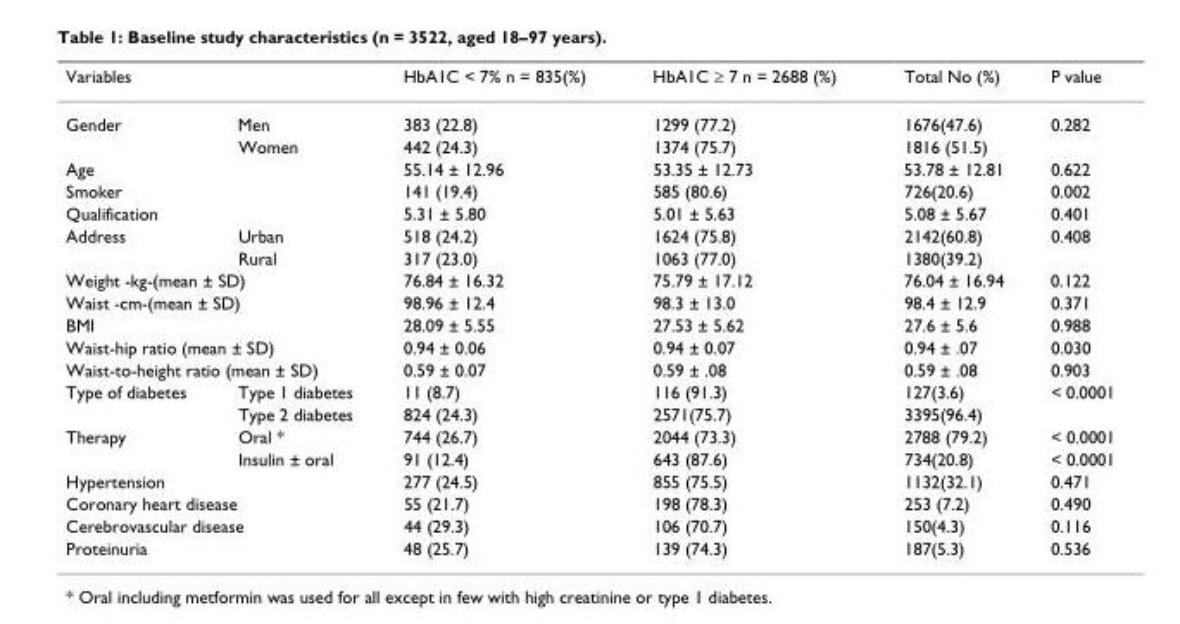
<table><thead><tr><td colspan="2">Variables</td><td rowspan="2">HbA1C &lt; 7% n = 835(%) 383 (22.8)</td><td rowspan="2">HbA1C ≥ 7 n = 2688 (%) 1299 (77.2)</td><td rowspan="2">Total No (%) 1676(47.6)</td><td rowspan="2">P value 0.282</td></tr><tr><td>Gender</td><td>Men</td></tr></thead><tbody><tr><td></td><td>Women</td><td>442 (24.3)</td><td>1374 (75.7)</td><td>1816 (51.5)</td><td></td></tr><tr><td colspan="2">Age</td><td>55.14 ± 12.96</td><td>53.35 ± 12.73</td><td>53.78 ± 12.81</td><td>0.622</td></tr><tr><td colspan="2">Smoker</td><td>141 (19.4)</td><td>585 (80.6)</td><td>726(20.6)</td><td>0.002</td></tr><tr><td colspan="2">Qualification</td><td>5.31 ± 5.80</td><td>5.01 ± 5.63</td><td>5.08 ± 5.67</td><td>0.401</td></tr><tr><td rowspan="2">Address</td><td>Urban</td><td>518 (24.2)</td><td>1624 (75.8)</td><td>2142(60.8)</td><td>0.408</td></tr><tr><td>Rural</td><td>317 (23.0)</td><td>1063 (77.0)</td><td>1380(39.2)</td><td></td></tr><tr><td colspan="2">Weight -kg-(mean ± SD)</td><td>76.84 ± 16.32</td><td>75.79 ± 17.12</td><td>76.04 ± 16.94</td><td>0.122</td></tr><tr><td colspan="2">Waist -cm-(mean ± SD)</td><td>98.96 ± 12.4</td><td>98.3 ± 13.0</td><td>98.4 ± 12.9</td><td>0.371</td></tr><tr><td colspan="2">BMI</td><td>28.09 ± 5.55</td><td>27.53 ± 5.62</td><td>27.6 ± 5.6</td><td>0.988</td></tr><tr><td colspan="2">Waist-hip ratio (mean ± SD)</td><td>0.94 ± 0.06</td><td>0.94 ± 0.07</td><td>0.94 ± .07</td><td>0.030</td></tr><tr><td colspan="2">Waist-to-height ratio (mean ± SD)</td><td>0.59 ± 0.07</td><td>0.59 ± .08</td><td>0.59 ± .08</td><td>0.903</td></tr><tr><td rowspan="2">Type of diabetes</td><td>Type 1 diabetes</td><td>11 (8.7)</td><td>116 (91.3)</td><td>127(3.6)</td><td>&lt; 0.0001</td></tr><tr><td>Type 2 diabetes</td><td>824 (24.3)</td><td>2571(75.7)</td><td>3395(96.4)</td><td></td></tr><tr><td rowspan="2">Therapy</td><td>Oral *</td><td>744 (26.7)</td><td>2044 (73.3)</td><td>2788 (79.2)</td><td>&lt; 0.0001</td></tr><tr><td>Insulin ± oral</td><td>91 (12.4)</td><td>643 (87.6)</td><td>734(20.8)</td><td>&lt; 0.0001</td></tr><tr><td colspan="2">Hypertension</td><td>277 (24.5)</td><td>855 (75.5)</td><td>1132(32.1)</td><td>0.471</td></tr><tr><td colspan="2">Coronary heart disease</td><td>55 (21.7)</td><td>198 (78.3)</td><td>253 (7.2)</td><td>0.490</td></tr><tr><td colspan="2">Cerebrovascular disease</td><td>44 (29.3)</td><td>106 (70.7)</td><td>150(4.3)</td><td>0.116</td></tr><tr><td colspan="2">Proteinuria</td><td>48 (25.7)</td><td>139 (74.3)</td><td>187(5.3)</td><td>0.536</td></tr></tbody></table>